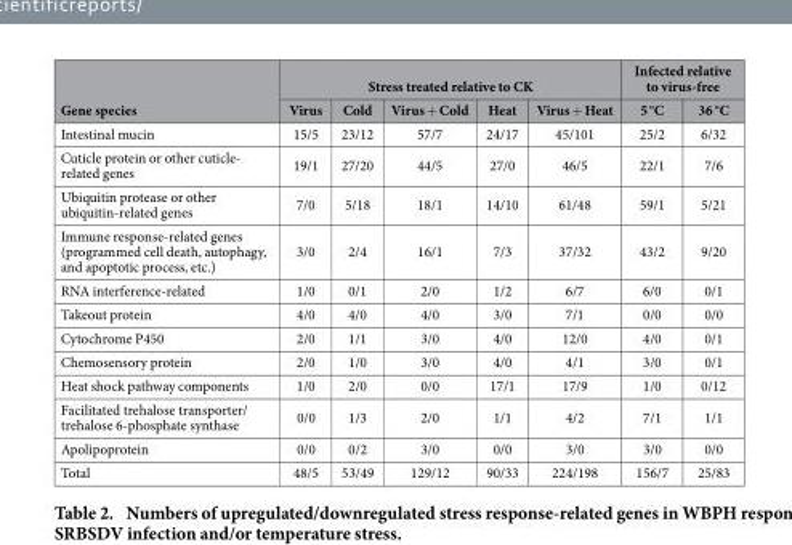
<table><thead><tr><td rowspan="2">Gene species</td><td colspan="5">Stress treated relative to CK</td><td colspan="2">Infected relative to virus-free</td></tr><tr><td>Virus</td><td>Cold</td><td>Virus + Cold</td><td>Heat</td><td>Virus + Heat</td><td>5 °C</td><td>36 °C</td></tr></thead><tbody><tr><td>Intestinal mucin</td><td>15/5</td><td>23/12</td><td>57/7</td><td>24/17</td><td>45/101</td><td>25/2</td><td>6/32</td></tr><tr><td>Cuticle protein or other cuticle- related genes</td><td>19/1</td><td>27/20</td><td>44/5</td><td>27/0</td><td>46/5</td><td>22/1</td><td>7/6</td></tr><tr><td>Ubiquitin protease or other ubiquitin-related genes</td><td>7/0</td><td>5/18</td><td>18/1</td><td>14/10</td><td>61/48</td><td>59/1</td><td>5/21</td></tr><tr><td>Immune response-related genes (programmed cell death, autophagy, and apoptotic process, etc.)</td><td>3/0</td><td>2/4</td><td>16/1</td><td>7/3</td><td>37/32</td><td>43/2</td><td>9/20</td></tr><tr><td>RNA interference-related</td><td>1/0</td><td>0/1</td><td>2/0</td><td>1/2</td><td>6/7</td><td>6/0</td><td>0/1</td></tr><tr><td>Takeout protein</td><td>4/0</td><td>4/0</td><td>4/0</td><td>3/0</td><td>7/1</td><td>0/0</td><td>0/0</td></tr><tr><td>Cytochrome P450</td><td>2/0</td><td>1/1</td><td>3/0</td><td>4/0</td><td>12/0</td><td>4/0</td><td>0/1</td></tr><tr><td>Chemosensory protein</td><td>2/0</td><td>1/0</td><td>3/0</td><td>4/0</td><td>4/1</td><td>3/0</td><td>0/1</td></tr><tr><td>Heat shock pathway components</td><td>1/0</td><td>2/0</td><td>0/0</td><td>17/1</td><td>17/9</td><td>1/0</td><td>0/12</td></tr><tr><td>Facilitated trehalose transporter/ trehalose 6-phosphate synthase</td><td>0/0</td><td>1/3</td><td>2/0</td><td>1/1</td><td>4/2</td><td>7/1</td><td>1/1</td></tr><tr><td>Apolipoprotein</td><td>0/0</td><td>0/2</td><td>3/0</td><td>0/0</td><td>3/0</td><td>3/0</td><td>0/0</td></tr><tr><td>Total</td><td>48/5</td><td>53/49</td><td>129/12</td><td>90/33</td><td>224/198</td><td>156/7</td><td>25/83</td></tr></tbody></table>